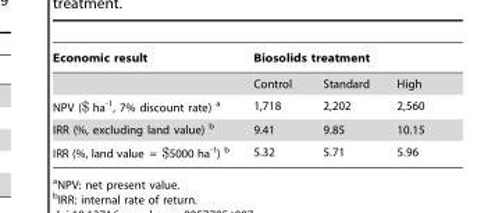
<table><thead><tr><td rowspan="2">Economic result</td><td colspan="3">Biosolids treatment</td></tr><tr><td>Control</td><td>Standard</td><td>High</td></tr></thead><tbody><tr><td>NPV ($ ha<sup>-1</sup>, 7% discount rate) a</td><td>1,718</td><td>2,202</td><td>2,560</td></tr><tr><td>IRR (%, excluding land value) b</td><td>9.41</td><td>9.85</td><td>10.15</td></tr><tr><td>IRR (%, land value = $5000 ha<sup>-1</sup>) b</td><td>5.32</td><td>5.71</td><td>5.96</td></tr></tbody></table>